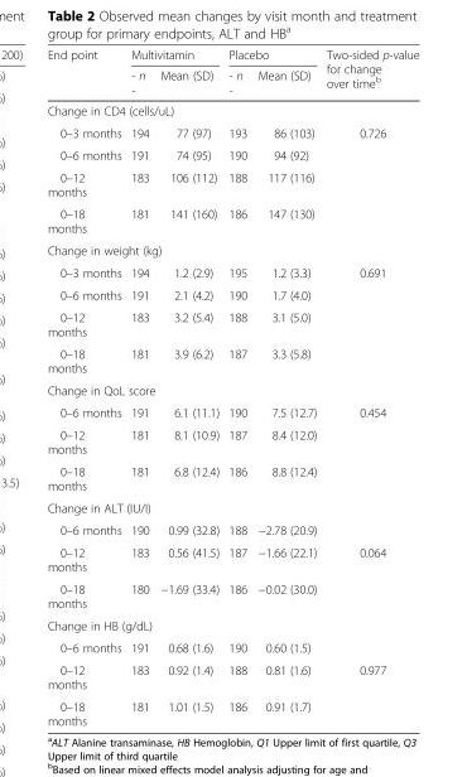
<table><thead><tr><td rowspan="2">End point</td><td colspan="2">Multivitamin</td><td colspan="2">Placebo</td><td rowspan="2">Two-sided p-value for change over time<sup>b</sup></td></tr><tr><td>- n -</td><td>Mean (SD)</td><td>- n -</td><td>Mean (SD)</td></tr></thead><tbody><tr><td colspan="6">Change in CD4 (cells/uL)</td></tr><tr><td>0–3 months</td><td>194</td><td>77 (97)</td><td>193</td><td>86 (103)</td><td>0.726</td></tr><tr><td>0–6 months</td><td>191</td><td>74 (95)</td><td>190</td><td>94 (92)</td><td></td></tr><tr><td>0–12 months</td><td>183</td><td>106 (112)</td><td>188</td><td>117 (116)</td><td></td></tr><tr><td>0–18 months</td><td>181</td><td>141 (160)</td><td>186</td><td>147 (130)</td><td></td></tr><tr><td colspan="6">Change in weight (kg)</td></tr><tr><td>0–3 months</td><td>194</td><td>1.2 (2.9)</td><td>195</td><td>1.2 (3.3)</td><td>0.691</td></tr><tr><td>0–6 months</td><td>191</td><td>2.1 (4.2)</td><td>190</td><td>1.7 (4.0)</td><td></td></tr><tr><td>0–12 months</td><td>183</td><td>3.2 (5.4)</td><td>188</td><td>3.1 (5.0)</td><td></td></tr><tr><td>0–18 months</td><td>181</td><td>3.9 (6.2)</td><td>187</td><td>3.3 (5.8)</td><td></td></tr><tr><td colspan="6">Change in QoL score</td></tr><tr><td>0–6 months</td><td>191</td><td>6.1 (11.1)</td><td>190</td><td>7.5 (12.7)</td><td>0.454</td></tr><tr><td>0–12 months</td><td>181</td><td>8.1 (10.9)</td><td>187</td><td>8.4 (12.0)</td><td></td></tr><tr><td>0–18 months</td><td>181</td><td>6.8 (12.4)</td><td>186</td><td>8.8 (12.4)</td><td></td></tr><tr><td colspan="6">Change in ALT (IU/I)</td></tr><tr><td>0–6 months</td><td>190</td><td>0.99 (32.8)</td><td>188</td><td>−2.78 (20.9)</td><td></td></tr><tr><td>0–12 months</td><td>183</td><td>0.56 (41.5)</td><td>187</td><td>−1.66 (22.1)</td><td>0.064</td></tr><tr><td>0–18 months</td><td>180</td><td>−1.69 (33.4)</td><td>186</td><td>−0.02 (30.0)</td><td></td></tr><tr><td colspan="6">Change in HB (g/dL)</td></tr><tr><td>0–6 months</td><td>191</td><td>0.68 (1.6)</td><td>190</td><td>0.60 (1.5)</td><td></td></tr><tr><td>0–12 months</td><td>183</td><td>0.92 (1.4)</td><td>188</td><td>0.81 (1.6)</td><td>0.977</td></tr><tr><td>0–18 months</td><td>181</td><td>1.01 (1.5)</td><td>186</td><td>0.91 (1.7)</td><td></td></tr></tbody></table>